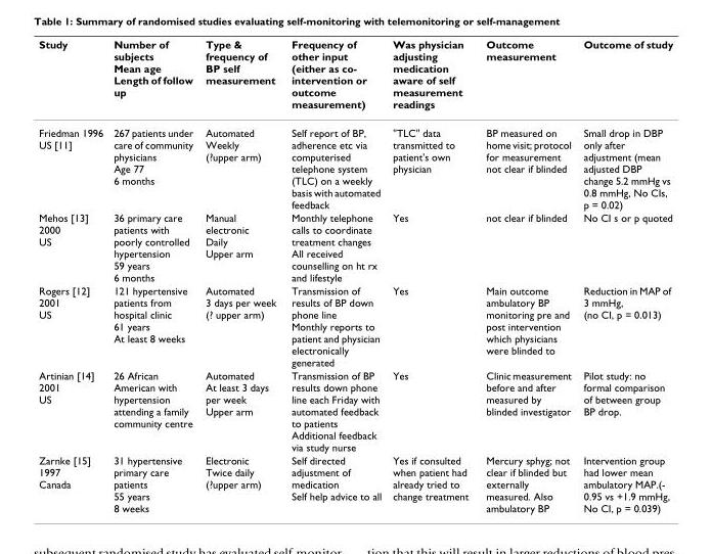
<table><thead><tr><td>Study</td><td>Number of subjects Mean age Length of follow up</td><td>Type &amp; frequency of BP self measurement</td><td>Frequency of other input (either as co- intervention or outcome measurement)</td><td>Was physician adjusting medication aware of self measurement readings</td><td>Outcome measurement</td><td>Outcome of study</td></tr></thead><tbody><tr><td>Friedman 1996 US [11]</td><td>267 patients under care of community physicians Age 77 6 months</td><td>Automated Weekly (?upper arm)</td><td>Self report of BP, adherence etc via computerised telephone system (TLC) on a weekly basis with automated feedback</td><td>&quot;TLC&quot; data transmitted to patient&#x27;s own physician</td><td>BP measured on home visit; protocol for measurement not clear if blinded</td><td>Small drop in DBP only after adjustment (mean adjusted DBP change 5.2 mmHg vs 0.8 mmHg, No CIs, p = 0.02)</td></tr><tr><td>Mehos [13] 2000 US</td><td>36 primary care patients with poorly controlled hypertension 59 years 6 months</td><td>Manual electronic Daily Upper arm</td><td>Monthly telephone calls to coordinate treatment changes All received counselling on ht rx and lifestyle</td><td>Yes</td><td>not clear if blinded</td><td>No CI s or p quoted</td></tr><tr><td>Rogers [12] 2001 US</td><td>121 hypertensive patients from hospital clinic 61 years At least 8 weeks</td><td>Automated 3 days per week (? upper arm)</td><td>Transmission of results of BP down phone line Monthly reports to patient and physician electronically generated</td><td>Yes</td><td>Main outcome ambulatory BP monitoring pre and post intervention which physicians were blinded to</td><td>Reduction in MAP of 3 mmHg, (no CI, p = 0.013)</td></tr><tr><td>Artinian [14] 2001 US</td><td>26 African American with hypertension attending a family community centre</td><td>Automated At least 3 days per week Upper arm</td><td>Transmission of BP results down phone line each Friday with automated feedback to patients Additional feedback via study nurse</td><td>Yes</td><td>Clinic measurement before and after measured by blinded investigator</td><td>Pilot study: no formal comparison of between group BP drop.</td></tr><tr><td>Zarnke [15] 1997 Canada</td><td>31 hypertensive primary care patients 55 years 8 weeks</td><td>Electronic Twice daily (?upper arm)</td><td>Self directed adjustment of medication Self help advice to all</td><td>Yes if consulted when patient had already tried to change treatment</td><td>Mercury sphyg; not clear if blinded but externally measured. Also ambulatory BP</td><td>Intervention group had lower mean ambulatory MAP.(- 0.95 vs +1.9 mmHg, No CI, p = 0.039)</td></tr></tbody></table>